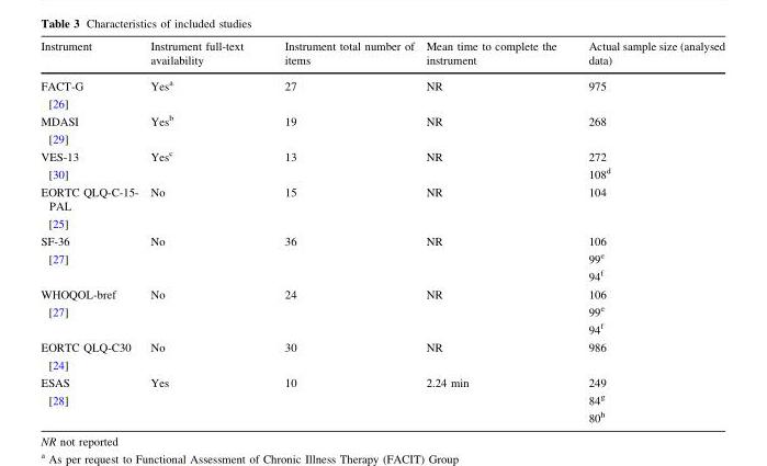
<table><thead><tr><td>Instrument</td><td>Instrument full-text availability</td><td>Instrument total number of items</td><td>Mean time to complete the instrument</td><td>Actual sample size (analysed data)</td></tr></thead><tbody><tr><td>FACT-G [26]</td><td>Yes<sup>a</sup></td><td>27</td><td>NR</td><td>975</td></tr><tr><td>MDASI [29]</td><td>Yes<sup>b</sup></td><td>19</td><td>NR</td><td>268</td></tr><tr><td>VES-13 [30]</td><td>Yes<sup>c</sup></td><td>13</td><td>NR</td><td>272 108<sup>d</sup></td></tr><tr><td>EORTC QLQ-C-15- PAL [25]</td><td>No</td><td>15</td><td>NR</td><td>104</td></tr><tr><td>SF-36 [27]</td><td>No</td><td>36</td><td>NR</td><td>106 99<sup>e</sup> 94<sup>f</sup></td></tr><tr><td>WHOQOL-bref [27]</td><td>No</td><td>24</td><td>NR</td><td>106 99<sup>e</sup> 94<sup>f</sup></td></tr><tr><td>EORTC QLQ-C30 [24]</td><td>No</td><td>30</td><td>NR</td><td>986</td></tr><tr><td>ESAS [28]</td><td>Yes</td><td>10</td><td>2.24 min</td><td>249 84<sup>g</sup> 80<sup>h</sup></td></tr></tbody></table>